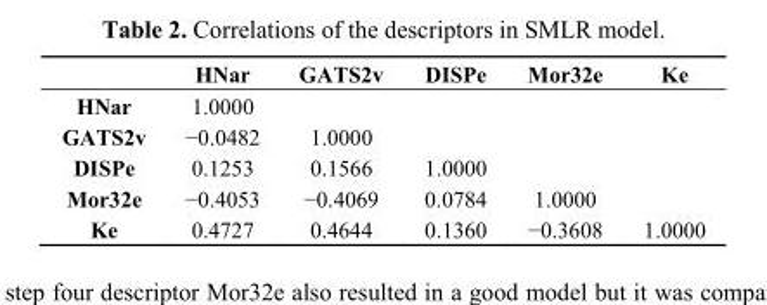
<table><thead><tr><td></td><td>HNar</td><td>GATS2v</td><td>DISPe</td><td>Mor32e</td><td>Ke</td></tr></thead><tbody><tr><td>HNar</td><td>1.0000</td><td></td><td></td><td></td><td></td></tr><tr><td>GATS2v</td><td>−0.0482</td><td>1.0000</td><td></td><td></td><td></td></tr><tr><td>DISPe</td><td>0.1253</td><td>0.1566</td><td>1.0000</td><td></td><td></td></tr><tr><td>Mor32e</td><td>−0.4053</td><td>−0.4069</td><td>0.0784</td><td>1.0000</td><td></td></tr><tr><td>Ke</td><td>0.4727</td><td>0.4644</td><td>0.1360</td><td>−0.3608</td><td>1.0000</td></tr></tbody></table>